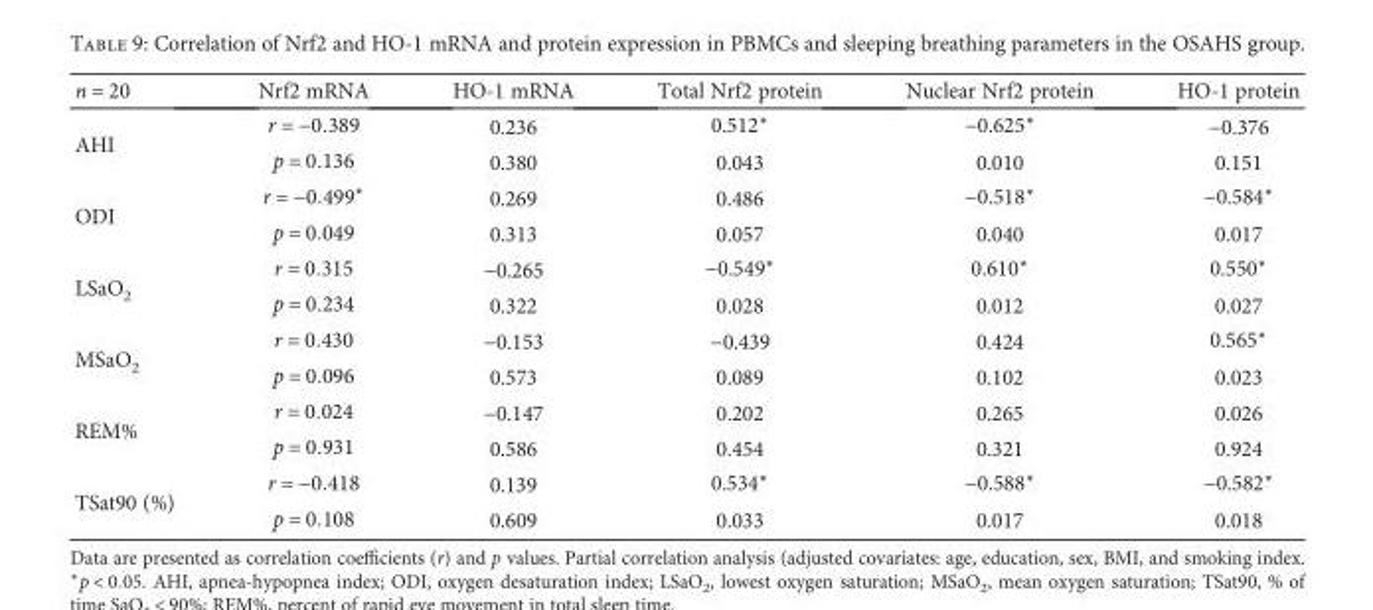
<table><thead><tr><td>n = 20</td><td>Nrf2 mRNA</td><td>HO-1 mRNA</td><td>Total Nrf2 protein</td><td>Nuclear Nrf2 protein</td><td>HO-1 protein</td></tr></thead><tbody><tr><td rowspan="2">AHI</td><td>r = −0 389</td><td>0.236</td><td>0.512∗</td><td>−0.625∗</td><td>−0.376</td></tr><tr><td>p = 0 136</td><td>0.380</td><td>0.043</td><td>0.010</td><td>0.151</td></tr><tr><td rowspan="2">ODI</td><td>r = −0 499∗</td><td>0.269</td><td>0.486</td><td>−0.518∗</td><td>−0.584∗</td></tr><tr><td>p = 0 049</td><td>0.313</td><td>0.057</td><td>0.040</td><td>0.017</td></tr><tr><td rowspan="2">LSaO<sub>2</sub></td><td>r = 0 315</td><td>−0.265</td><td>−0.549∗</td><td>0.610∗</td><td>0.550∗</td></tr><tr><td>p = 0 234</td><td>0.322</td><td>0.028</td><td>0.012</td><td>0.027</td></tr><tr><td rowspan="2">MSaO<sub>2</sub></td><td>r = 0 430</td><td>−0.153</td><td>−0.439</td><td>0.424</td><td>0.565∗</td></tr><tr><td>p = 0 096</td><td>0.573</td><td>0.089</td><td>0.102</td><td>0.023</td></tr><tr><td rowspan="2">REM%</td><td>r = 0 024</td><td>−0.147</td><td>0.202</td><td>0.265</td><td>0.026</td></tr><tr><td>p = 0 931</td><td>0.586</td><td>0.454</td><td>0.321</td><td>0.924</td></tr><tr><td rowspan="2">TSat90 (%)</td><td>r = −0 418</td><td>0.139</td><td>0.534∗</td><td>−0.588∗</td><td>−0.582∗</td></tr><tr><td>p = 0 108</td><td>0.609</td><td>0.033</td><td>0.017</td><td>0.018</td></tr></tbody></table>